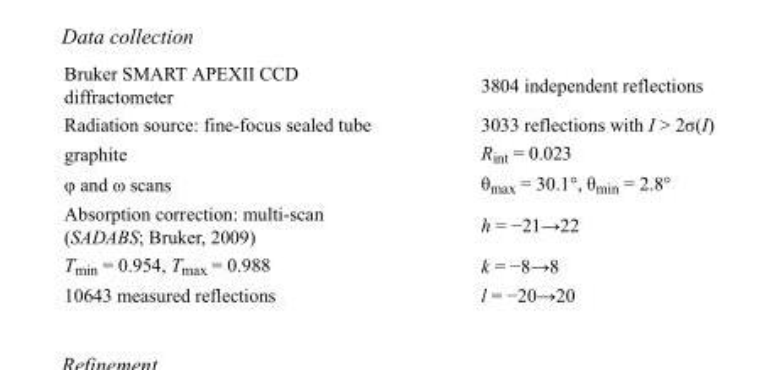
<table><tbody><tr><td>Bruker SMART APEXII CCD diffractometer</td><td>3804 independent reflections</td></tr><tr><td>Radiation source: fine-focus sealed tube</td><td>3033 reflections with I &gt; 2σ(I)</td></tr><tr><td>graphite</td><td>R<sub>int</sub> = 0.023</td></tr><tr><td>φ and ω scans</td><td>θ<sub>max</sub> = 30.1°, θ<sub>min</sub> = 2.8°</td></tr><tr><td>Absorption correction: multi-scan (SADABS; Bruker, 2009)</td><td>h = −21→22</td></tr><tr><td>T<sub>min</sub> = 0.954, T<sub>max</sub> = 0.988</td><td>k = −8→8</td></tr><tr><td>10643 measured reflections</td><td>l = −20→20</td></tr></tbody></table>